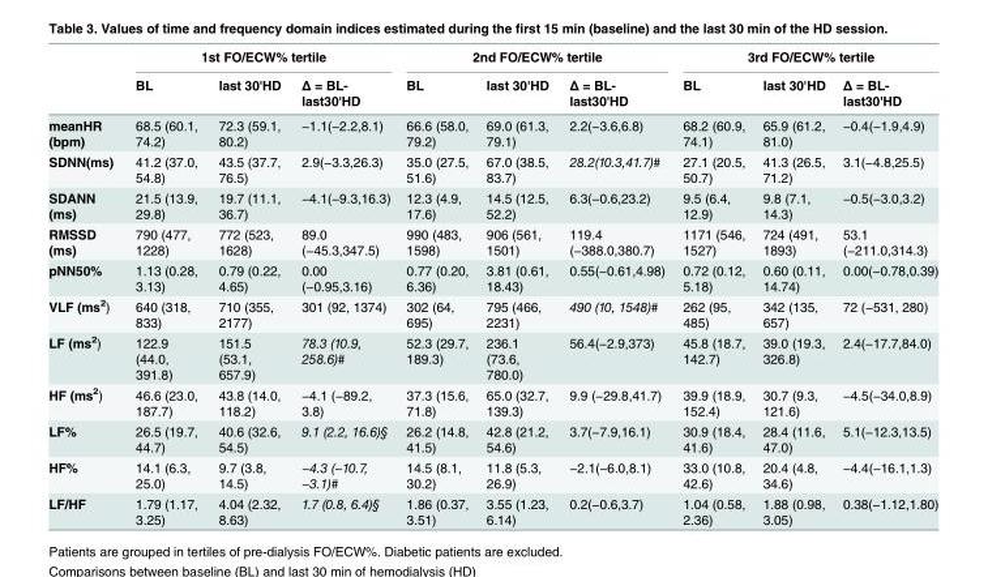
<table><thead><tr><td rowspan="2"></td><td colspan="3">1st FO/ECW% tertile</td><td colspan="3">2nd FO/ECW% tertile</td><td colspan="3">3rd FO/ECW% tertile</td></tr><tr><td>BL</td><td>last 30&#x27;HD</td><td>Δ = BL- last30&#x27;HD</td><td>BL</td><td>last 30&#x27;HD</td><td>Δ = BL- last30&#x27;HD</td><td>BL</td><td>last 30&#x27;HD</td><td>Δ = BL- last30&#x27;HD</td></tr></thead><tbody><tr><td>meanHR (bpm)</td><td>68.5 (60.1, 74.2)</td><td>72.3 (59.1, 80.2)</td><td>−1.1(−2.2,8.1)</td><td>66.6 (58.0, 79.2)</td><td>69.0 (61.3, 79.1)</td><td>2.2(−3.6,6.8)</td><td>68.2 (60.9, 74.1)</td><td>65.9 (61.2, 81.0)</td><td>−0.4(−1.9,4.9)</td></tr><tr><td>SDNN(ms)</td><td>41.2 (37.0, 54.8)</td><td>43.5 (37.7, 76.5)</td><td>2.9(−3.3,26.3)</td><td>35.0 (27.5, 51.6)</td><td>67.0 (38.5, 83.7)</td><td>28.2(10.3,41.7)#</td><td>27.1 (20.5, 50.7)</td><td>41.3 (26.5, 71.2)</td><td>3.1(−4.8,25.5)</td></tr><tr><td>SDANN (ms)</td><td>21.5 (13.9, 29.8)</td><td>19.7 (11.1, 36.7)</td><td>−4.1(−9.3,16.3)</td><td>12.3 (4.9, 17.6)</td><td>14.5 (12.5, 52.2)</td><td>6.3(−0.6,23.2)</td><td>9.5 (6.4, 12.9)</td><td>9.8 (7.1, 14.3)</td><td>−0.5(−3.0,3.2)</td></tr><tr><td>RMSSD (ms)</td><td>790 (477, 1228)</td><td>772 (523, 1628)</td><td>89.0 (−45.3,347.5)</td><td>990 (483, 1598)</td><td>906 (561, 1501)</td><td>119.4 (−388.0,380.7)</td><td>1171 (546, 1527)</td><td>724 (491, 1893)</td><td>53.1 (−211.0,314.3)</td></tr><tr><td>pNN50%</td><td>1.13 (0.28, 3.13)</td><td>0.79 (0.22, 4.65)</td><td>0.00 (−0.95,3.16)</td><td>0.77 (0.20, 6.36)</td><td>3.81 (0.61, 18.43)</td><td>0.55(−0.61,4.98)</td><td>0.72 (0.12, 5.18)</td><td>0.60 (0.11, 14.74)</td><td>0.00(−0.78,0.39)</td></tr><tr><td>VLF (ms<sup>2</sup>)</td><td>640 (318, 833)</td><td>710 (355, 2177)</td><td>301 (92, 1374)</td><td>302 (64, 695)</td><td>795 (466, 2231)</td><td>490 (10, 1548)#</td><td>262 (95, 485)</td><td>342 (135, 657)</td><td>72 (−531, 280)</td></tr><tr><td>LF (ms<sup>2</sup>)</td><td>122.9 (44.0, 391.8)</td><td>151.5 (53.1, 657.9)</td><td>78.3 (10.9, 258.6)#</td><td>52.3 (29.7, 189.3)</td><td>236.1 (73.6, 780.0)</td><td>56.4(−2.9,373)</td><td>45.8 (18.7, 142.7)</td><td>39.0 (19.3, 326.8)</td><td>2.4(−17.7,84.0)</td></tr><tr><td>HF (ms<sup>2</sup>)</td><td>46.6 (23.0, 187.7)</td><td>43.8 (14.0, 118.2)</td><td>−4.1 (−89.2, 3.8)</td><td>37.3 (15.6, 71.8)</td><td>65.0 (32.7, 139.3)</td><td>9.9 (−29.8,41.7)</td><td>39.9 (18.9, 152.4)</td><td>30.7 (9.3, 121.6)</td><td>−4.5(−34.0,8.9)</td></tr><tr><td>LF%</td><td>26.5 (19.7, 44.7)</td><td>40.6 (32.6, 54.5)</td><td>9.1 (2.2, 16.6)§</td><td>26.2 (14.8, 41.5)</td><td>42.8 (21.2, 54.6)</td><td>3.7(−7.9,16.1)</td><td>30.9 (18.4, 41.6)</td><td>28.4 (11.6, 47.0)</td><td>5.1(−12.3,13.5)</td></tr><tr><td>HF%</td><td>14.1 (6.3, 25.0)</td><td>9.7 (3.8, 14.5)</td><td>−4.3 (−10.7, −3.1)#</td><td>14.5 (8.1, 30.2)</td><td>11.8 (5.3, 26.9)</td><td>−2.1(−6.0,8.1)</td><td>33.0 (10.8, 42.6)</td><td>20.4 (4.8, 34.6)</td><td>−4.4(−16.1,1.3)</td></tr><tr><td>LF/HF</td><td>1.79 (1.17, 3.25)</td><td>4.04 (2.32, 8.63)</td><td>1.7 (0.8, 6.4)§</td><td>1.86 (0.37, 3.51)</td><td>3.55 (1.23, 6.14)</td><td>0.2(−0.6,3.7)</td><td>1.04 (0.58, 2.36)</td><td>1.88 (0.98, 3.05)</td><td>0.38(−1.12,1.80)</td></tr></tbody></table>